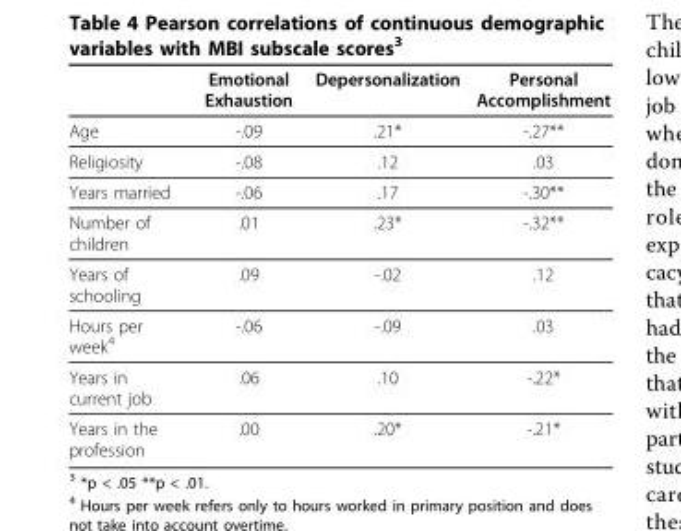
<table><thead><tr><td></td><td>Emotional Exhaustion</td><td>Depersonalization</td><td>Personal Accomplishment</td></tr></thead><tbody><tr><td>Age</td><td>-.09</td><td>.21*</td><td>-.27**</td></tr><tr><td>Religiosity</td><td>-.08</td><td>.12</td><td>.03</td></tr><tr><td>Years married</td><td>-.06</td><td>.17</td><td>-.30**</td></tr><tr><td>Number of children</td><td>.01</td><td>.23*</td><td>-.32**</td></tr><tr><td>Years of schooling</td><td>.09</td><td>-.02</td><td>.12</td></tr><tr><td>Hours per week<sup>4</sup></td><td>-.06</td><td>-.09</td><td>.03</td></tr><tr><td>Years in current job</td><td>.06</td><td>.10</td><td>-.22*</td></tr><tr><td>Years in the profession</td><td>.00</td><td>.20*</td><td>-.21*</td></tr></tbody></table>